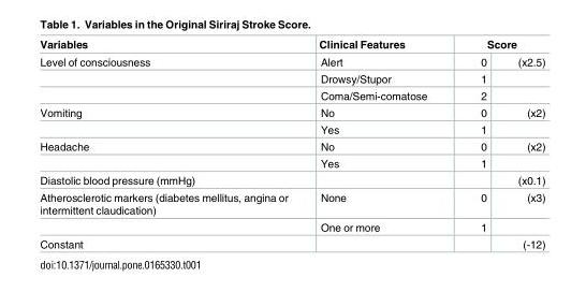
<table><thead><tr><td rowspan="2">Variables Level of consciousness</td><td rowspan="2">Clinical Features Alert</td><td colspan="2">Score</td></tr><tr><td>0</td><td>(x2.5)</td></tr></thead><tbody><tr><td></td><td>Drowsy/Stupor</td><td>1</td><td></td></tr><tr><td></td><td>Coma/Semi-comatose</td><td>2</td><td></td></tr><tr><td rowspan="2">Vomiting</td><td>No</td><td>0</td><td>(x2)</td></tr><tr><td>Yes</td><td>1</td><td></td></tr><tr><td rowspan="2">Headache</td><td>No</td><td>0</td><td>(x2)</td></tr><tr><td>Yes</td><td>1</td><td></td></tr><tr><td>Diastolic blood pressure (mmHg)</td><td></td><td></td><td>(x0.1)</td></tr><tr><td rowspan="2">Atherosclerotic markers (diabetes mellitus, angina or intermittent claudication)</td><td>None</td><td>0</td><td>(x3)</td></tr><tr><td>One or more</td><td>1</td><td></td></tr><tr><td>Constant</td><td></td><td></td><td>(-12)</td></tr></tbody></table>